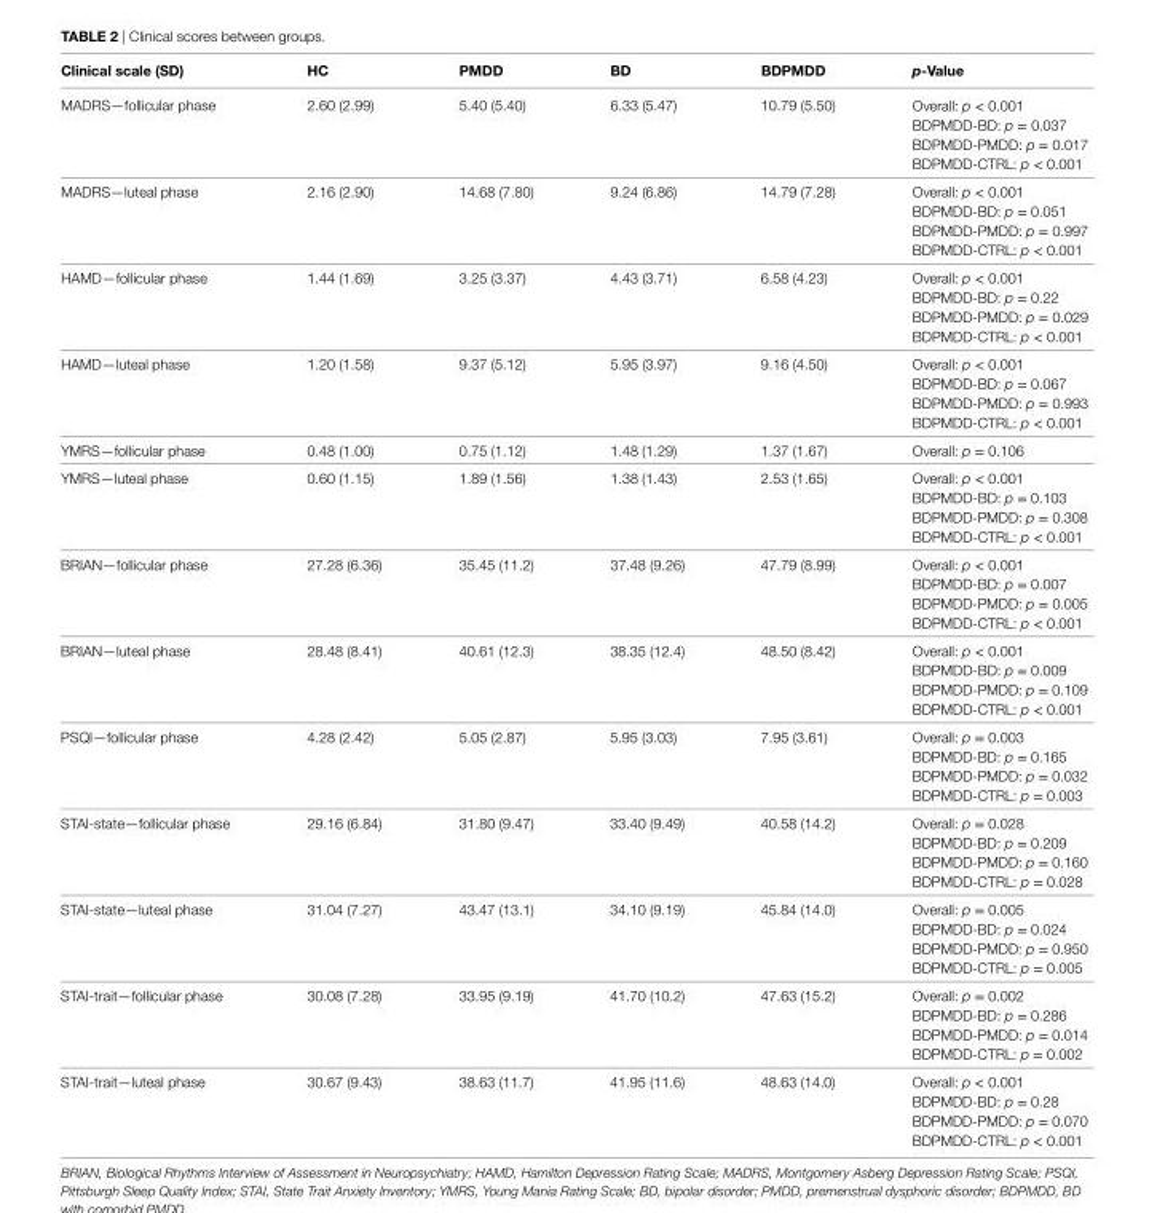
<table><thead><tr><td>clinical scale (sD)</td><td>hc</td><td>PMDD</td><td>BD</td><td>BDPMDD</td><td>p-Value</td></tr></thead><tbody><tr><td>MADRS—follicular phase</td><td>2.60 (2.99)</td><td>5.40 (5.40)</td><td>6.33 (5.47)</td><td>10.79 (5.50)</td><td>Overall: p &lt; 0.001 BDPMDD-BD: p = 0.037 BDPMDD-PMDD: p = 0.017 BDPMDD-CTRL: p &lt; 0.001</td></tr><tr><td>MADRS—luteal phase</td><td>2.16 (2.90)</td><td>14.68 (7.80)</td><td>9.24 (6.86)</td><td>14.79 (7.28)</td><td>Overall: p &lt; 0.001 BDPMDD-BD: p = 0.051 BDPMDD-PMDD: p = 0.997 BDPMDD-CTRL: p &lt; 0.001</td></tr><tr><td>HAMD—follicular phase</td><td>1.44 (1.69)</td><td>3.25 (3.37)</td><td>4.43 (3.71)</td><td>6.58 (4.23)</td><td>Overall: p &lt; 0.001 BDPMDD-BD: p = 0.22 BDPMDD-PMDD: p = 0.029 BDPMDD-CTRL: p &lt; 0.001</td></tr><tr><td>HAMD—luteal phase</td><td>1.20 (1.58)</td><td>9.37 (5.12)</td><td>5.95 (3.97)</td><td>9.16 (4.50)</td><td>Overall: p &lt; 0.001 BDPMDD-BD: p = 0.067 BDPMDD-PMDD: p = 0.993 BDPMDD-CTRL: p &lt; 0.001</td></tr><tr><td>YMRS—follicular phase</td><td>0.48 (1.00)</td><td>0.75 (1.12)</td><td>1.48 (1.29)</td><td>1.37 (1.67)</td><td>Overall: p = 0.106</td></tr><tr><td>YMRS—luteal phase</td><td>0.60 (1.15)</td><td>1.89 (1.56)</td><td>1.38 (1.43)</td><td>2.53 (1.65)</td><td>Overall: p &lt; 0.001 BDPMDD-BD: p = 0.103 BDPMDD-PMDD: p = 0.308 BDPMDD-CTRL: p &lt; 0.001</td></tr><tr><td>BRIAN—follicular phase</td><td>27.28 (6.36)</td><td>35.45 (11.2)</td><td>37.48 (9.26)</td><td>47.79 (8.99)</td><td>Overall: p &lt; 0.001 BDPMDD-BD: p = 0.007 BDPMDD-PMDD: p = 0.005 BDPMDD-CTRL: p &lt; 0.001</td></tr><tr><td>BRIAN—luteal phase</td><td>28.48 (8.41)</td><td>40.61 (12.3)</td><td>38.35 (12.4)</td><td>48.50 (8.42)</td><td>Overall: p &lt; 0.001 BDPMDD-BD: p = 0.009 BDPMDD-PMDD: p = 0.109 BDPMDD-CTRL: p &lt; 0.001</td></tr><tr><td>PSQI—follicular phase</td><td>4.28 (2.42)</td><td>5.05 (2.87)</td><td>5.95 (3.03)</td><td>7.95 (3.61)</td><td>Overall: p = 0.003 BDPMDD-BD: p = 0.165 BDPMDD-PMDD: p = 0.032 BDPMDD-CTRL: p = 0.003</td></tr><tr><td>STAI-state—follicular phase</td><td>29.16 (6.84)</td><td>31.80 (9.47)</td><td>33.40 (9.49)</td><td>40.58 (14.2)</td><td>Overall: p = 0.028 BDPMDD-BD: p = 0.209 BDPMDD-PMDD: p = 0.160 BDPMDD-CTRL: p = 0.028</td></tr><tr><td>STAI-state—luteal phase</td><td>31.04 (7.27)</td><td>43.47 (13.1)</td><td>34.10 (9.19)</td><td>45.84 (14.0)</td><td>Overall: p = 0.005 BDPMDD-BD: p = 0.024 BDPMDD-PMDD: p = 0.950 BDPMDD-CTRL: p = 0.005</td></tr><tr><td>STAI-trait—follicular phase</td><td>30.08 (7.28)</td><td>33.95 (9.19)</td><td>41.70 (10.2)</td><td>47.63 (15.2)</td><td>Overall: p = 0.002 BDPMDD-BD: p = 0.286 BDPMDD-PMDD: p = 0.014 BDPMDD-CTRL: p = 0.002</td></tr><tr><td>STAI-trait—luteal phase</td><td>30.67 (9.43)</td><td>38.63 (11.7)</td><td>41.95 (11.6)</td><td>48.63 (14.0)</td><td>Overall: p &lt; 0.001 BDPMDD-BD: p = 0.28 BDPMDD-PMDD: p = 0.070 BDPMDD-CTRL: p &lt; 0.001</td></tr></tbody></table>